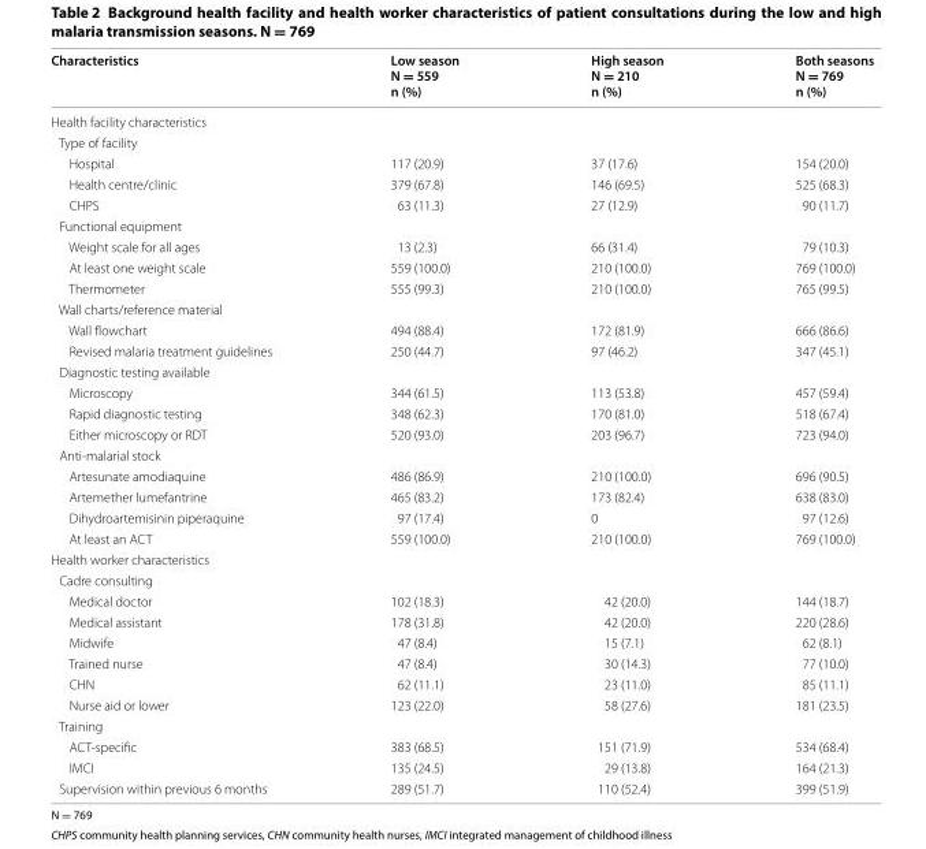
<table><thead><tr><td>Characteristics</td><td>Low season N = 559 n (%)</td><td>High season N = 210 n (%)</td><td>Both seasons N = 769 n (%)</td></tr></thead><tbody><tr><td colspan="4">Health facility characteristics</td></tr><tr><td colspan="4">Type of facility</td></tr><tr><td>Hospital</td><td>117 (20.9)</td><td>37 (17.6)</td><td>154 (20.0)</td></tr><tr><td>Health centre/clinic</td><td>379 (67.8)</td><td>146 (69.5)</td><td>525 (68.3)</td></tr><tr><td>CHPS</td><td>63 (11.3)</td><td>27 (12.9)</td><td>90 (11.7)</td></tr><tr><td colspan="4">Functional equipment</td></tr><tr><td>Weight scale for all ages</td><td>13 (2.3)</td><td>66 (31.4)</td><td>79 (10.3)</td></tr><tr><td>At least one weight scale</td><td>559 (100.0)</td><td>210 (100.0)</td><td>769 (100.0)</td></tr><tr><td>Thermometer</td><td>555 (99.3)</td><td>210 (100.0)</td><td>765 (99.5)</td></tr><tr><td colspan="4">Wall charts/reference material</td></tr><tr><td>Wall flowchart</td><td>494 (88.4)</td><td>172 (81.9)</td><td>666 (86.6)</td></tr><tr><td>Revised malaria treatment guidelines</td><td>250 (44.7)</td><td>97 (46.2)</td><td>347 (45.1)</td></tr><tr><td colspan="4">Diagnostic testing available</td></tr><tr><td>Microscopy</td><td>344 (61.5)</td><td>113 (53.8)</td><td>457 (59.4)</td></tr><tr><td>Rapid diagnostic testing</td><td>348 (62.3)</td><td>170 (81.0)</td><td>518 (67.4)</td></tr><tr><td>Either microscopy or RDT</td><td>520 (93.0)</td><td>203 (96.7)</td><td>723 (94.0)</td></tr><tr><td colspan="4">Anti‑malarial stock</td></tr><tr><td>Artesunate amodiaquine</td><td>486 (86.9)</td><td>210 (100.0)</td><td>696 (90.5)</td></tr><tr><td>Artemether lumefantrine</td><td>465 (83.2)</td><td>173 (82.4)</td><td>638 (83.0)</td></tr><tr><td>Dihydroartemisinin piperaquine</td><td>97 (17.4)</td><td>0</td><td>97 (12.6)</td></tr><tr><td>At least an ACT</td><td>559 (100.0)</td><td>210 (100.0)</td><td>769 (100.0)</td></tr><tr><td colspan="4">Health worker characteristics</td></tr><tr><td colspan="4">Cadre consulting</td></tr><tr><td>Medical doctor</td><td>102 (18.3)</td><td>42 (20.0)</td><td>144 (18.7)</td></tr><tr><td>Medical assistant</td><td>178 (31.8)</td><td>42 (20.0)</td><td>220 (28.6)</td></tr><tr><td>Midwife</td><td>47 (8.4)</td><td>15 (7.1)</td><td>62 (8.1)</td></tr><tr><td>Trained nurse</td><td>47 (8.4)</td><td>30 (14.3)</td><td>77 (10.0)</td></tr><tr><td>CHN</td><td>62 (11.1)</td><td>23 (11.0)</td><td>85 (11.1)</td></tr><tr><td>Nurse aid or lower</td><td>123 (22.0)</td><td>58 (27.6)</td><td>181 (23.5)</td></tr><tr><td colspan="4">Training</td></tr><tr><td>ACT‑specific</td><td>383 (68.5)</td><td>151 (71.9)</td><td>534 (68.4)</td></tr><tr><td>IMCI</td><td>135 (24.5)</td><td>29 (13.8)</td><td>164 (21.3)</td></tr><tr><td>Supervision within previous 6 months</td><td>289 (51.7)</td><td>110 (52.4)</td><td>399 (51.9)</td></tr></tbody></table>